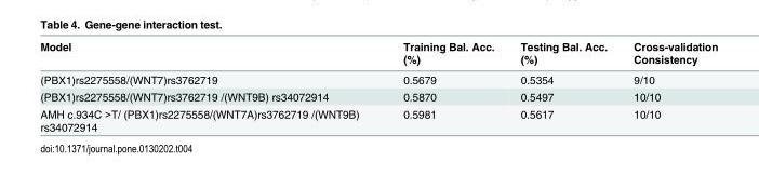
<table><thead><tr><td>Model</td><td>Training Bal. Acc. (%)</td><td>Testing Bal. Acc. (%)</td><td>Cross-validation Consistency</td></tr></thead><tbody><tr><td>(PBX1)rs2275558/(WNT7)rs3762719</td><td>0.5679</td><td>0.5354</td><td>9/10</td></tr><tr><td>(PBX1)rs2275558/(WNT7)rs3762719 /(WNT9B) rs34072914</td><td>0.5870</td><td>0.5497</td><td>10/10</td></tr><tr><td>AMH c.934C &gt;T/ (PBX1)rs2275558/(WNT7A)rs3762719 /(WNT9B) rs34072914</td><td>0.5981</td><td>0.5617</td><td>10/10</td></tr></tbody></table>